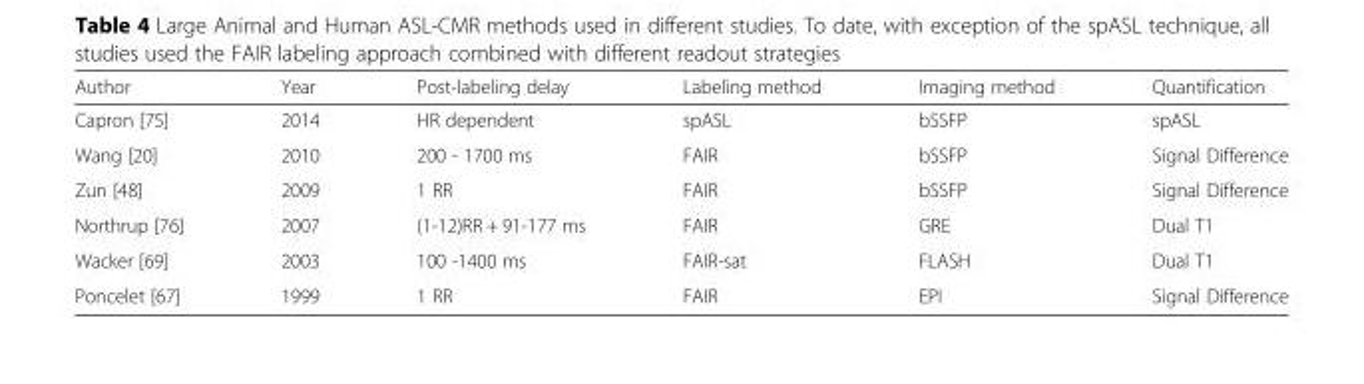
<table><thead><tr><td>Author</td><td>Year</td><td>Post-labeling delay</td><td>Labeling method</td><td>Imaging method</td><td>Quantification</td></tr></thead><tbody><tr><td>Capron [75]</td><td>2014</td><td>HR dependent</td><td>spASL</td><td>bSSFP</td><td>spASL</td></tr><tr><td>Wang [20]</td><td>2010</td><td>200 - 1700 ms</td><td>FAIR</td><td>bSSFP</td><td>Signal Difference</td></tr><tr><td>Zun [48]</td><td>2009</td><td>1 RR</td><td>FAIR</td><td>bSSFP</td><td>Signal Difference</td></tr><tr><td>Northrup [76]</td><td>2007</td><td>(1-12)RR + 91-177 ms</td><td>FAIR</td><td>GRE</td><td>Dual T1</td></tr><tr><td>Wacker [69]</td><td>2003</td><td>100 -1400 ms</td><td>FAIR-sat</td><td>FLASH</td><td>Dual T1</td></tr><tr><td>Poncelet [67]</td><td>1999</td><td>1 RR</td><td>FAIR</td><td>EPI</td><td>Signal Difference</td></tr></tbody></table>